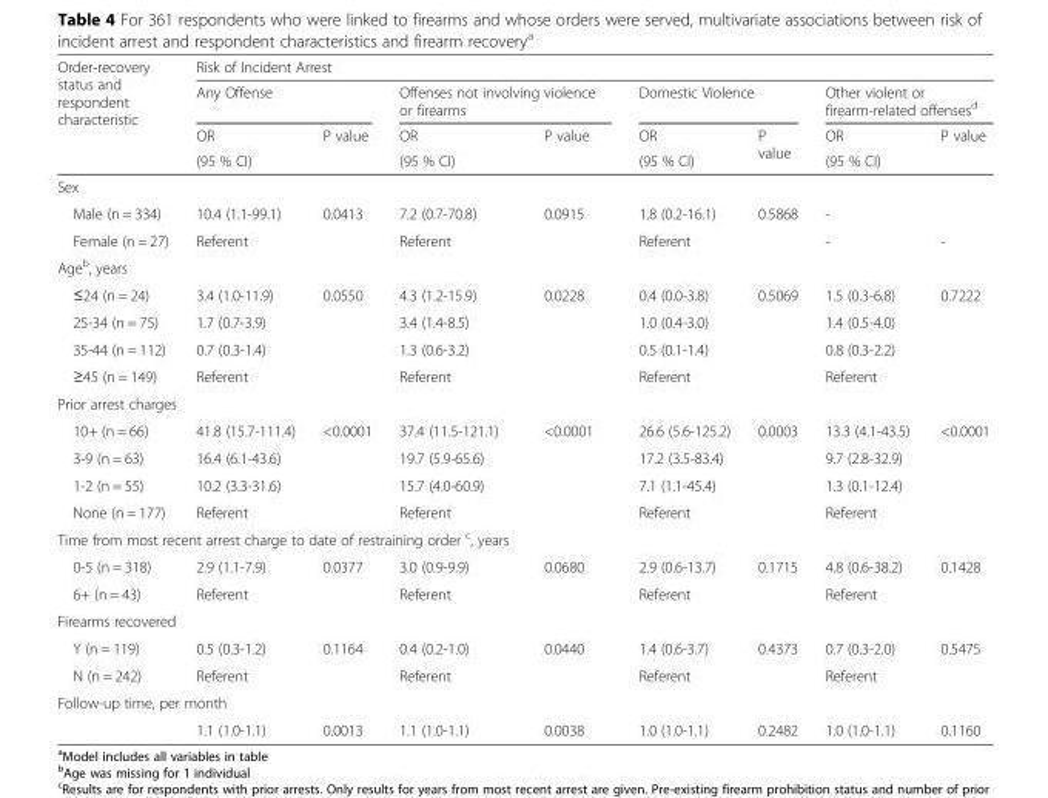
<table><thead><tr><td rowspan="4">Order-recovery status and respondent characteristic</td><td colspan="8">Risk of Incident Arrest</td></tr><tr><td colspan="2">Any Offense</td><td colspan="2">Offenses not involving violence or firearms</td><td colspan="2">Domestic Violence</td><td colspan="2">Other violent or firearm-related offenses<sup>d</sup></td></tr><tr><td rowspan="2">OR (95 % CI)</td><td rowspan="2">P value</td><td rowspan="2">OR (95 % CI)</td><td rowspan="2">P value</td><td rowspan="2">OR (95 % CI)</td><td rowspan="2">P value</td><td rowspan="2">OR (95 % CI)</td><td rowspan="2">P value</td></tr><tr></tr></thead><tbody><tr><td colspan="9">Sex</td></tr><tr><td>Male (n = 334)</td><td>10.4 (1.1-99.1)</td><td>0.0413</td><td>7.2 (0.7-70.8)</td><td>0.0915</td><td>1.8 (0.2-16.1)</td><td>0.5868</td><td>-</td><td></td></tr><tr><td>Female (n = 27)</td><td>Referent</td><td></td><td>Referent</td><td></td><td>Referent</td><td></td><td>-</td><td>-</td></tr><tr><td colspan="9">Age<sup>b</sup>, years</td></tr><tr><td>≤24 (n = 24)</td><td>3.4 (1.0-11.9)</td><td>0.0550</td><td>4.3 (1.2-15.9)</td><td>0.0228</td><td>0.4 (0.0-3.8)</td><td>0.5069</td><td>1.5 (0.3-6.8)</td><td>0.7222</td></tr><tr><td>25-34 (n = 75)</td><td>1.7 (0.7-3.9)</td><td></td><td>3.4 (1.4-8.5)</td><td></td><td>1.0 (0.4-3.0)</td><td></td><td>1.4 (0.5-4.0)</td><td></td></tr><tr><td>35-44 (n = 112)</td><td>0.7 (0.3-1.4)</td><td></td><td>1.3 (0.6-3.2)</td><td></td><td>0.5 (0.1-1.4)</td><td></td><td>0.8 (0.3-2.2)</td><td></td></tr><tr><td>≥45 (n = 149)</td><td>Referent</td><td></td><td>Referent</td><td></td><td>Referent</td><td></td><td>Referent</td><td></td></tr><tr><td colspan="9">Prior arrest charges</td></tr><tr><td>10+ (n = 66)</td><td>41.8 (15.7-111.4)</td><td>&lt;0.0001</td><td>37.4 (11.5-121.1)</td><td>&lt;0.0001</td><td>26.6 (5.6-125.2)</td><td>0.0003</td><td>13.3 (4.1-43.5)</td><td>&lt;0.0001</td></tr><tr><td>3-9 (n = 63)</td><td>16.4 (6.1-43.6)</td><td></td><td>19.7 (5.9-65.6)</td><td></td><td>17.2 (3.5-83.4)</td><td></td><td>9.7 (2.8-32.9)</td><td></td></tr><tr><td>1-2 (n = 55)</td><td>10.2 (3.3-31.6)</td><td></td><td>15.7 (4.0-60.9)</td><td></td><td>7.1 (1.1-45.4)</td><td></td><td>1.3 (0.1-12.4)</td><td></td></tr><tr><td>None (n = 177)</td><td>Referent</td><td></td><td>Referent</td><td></td><td>Referent</td><td></td><td>Referent</td><td></td></tr><tr><td colspan="9">Time from most recent arrest charge to date of restraining order <sup>c</sup>, years</td></tr><tr><td>0-5 (n = 318)</td><td>2.9 (1.1-7.9)</td><td>0.0377</td><td>3.0 (0.9-9.9)</td><td>0.0680</td><td>2.9 (0.6-13.7)</td><td>0.1715</td><td>4.8 (0.6-38.2)</td><td>0.1428</td></tr><tr><td>6+ (n = 43)</td><td>Referent</td><td></td><td>Referent</td><td></td><td>Referent</td><td></td><td>Referent</td><td></td></tr><tr><td colspan="9">Firearms recovered</td></tr><tr><td>Y (n = 119)</td><td>0.5 (0.3-1.2)</td><td>0.1164</td><td>0.4 (0.2-1.0)</td><td>0.0440</td><td>1.4 (0.6-3.7)</td><td>0.4373</td><td>0.7 (0.3-2.0)</td><td>0.5475</td></tr><tr><td>N (n = 242)</td><td>Referent</td><td></td><td>Referent</td><td></td><td>Referent</td><td></td><td>Referent</td><td></td></tr><tr><td colspan="9">Follow-up time, per month</td></tr><tr><td></td><td>1.1 (1.0-1.1)</td><td>0.0013</td><td>1.1 (1.0-1.1)</td><td>0.0038</td><td>1.0 (1.0-1.1)</td><td>0.2482</td><td>1.0 (1.0-1.1)</td><td>0.1160</td></tr></tbody></table>